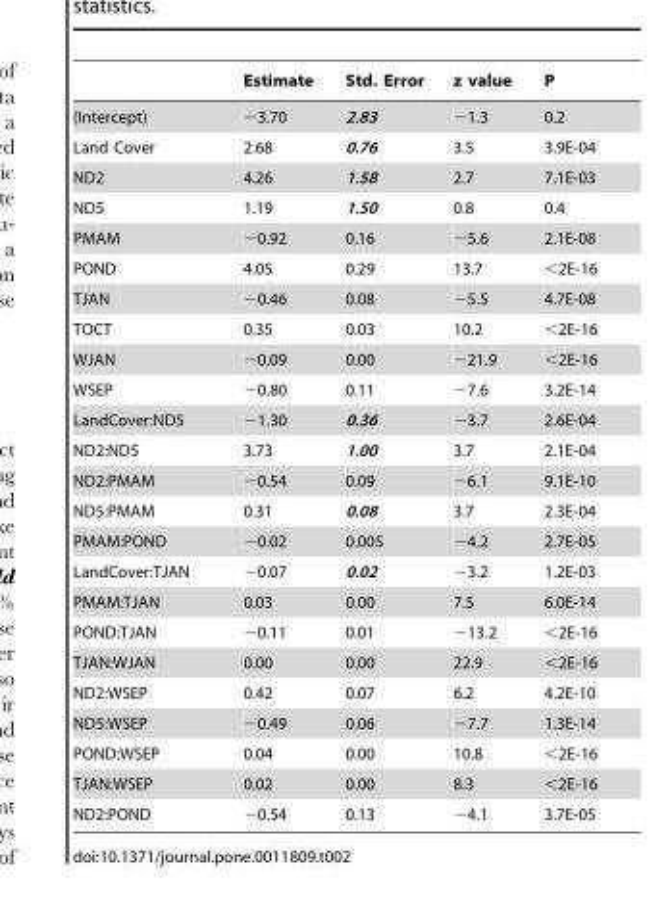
<table><thead><tr><td></td><td>Estimate</td><td>Std. Error</td><td>z value</td><td>P</td></tr></thead><tbody><tr><td>(Intercept)</td><td>−3.70</td><td>2.83</td><td>−1.3</td><td>0.2</td></tr><tr><td>Land Cover</td><td>2.68</td><td>0.76</td><td>3.5</td><td>3.9E-04</td></tr><tr><td>ND2</td><td>4.26</td><td>1.58</td><td>2.7</td><td>7.1E-03</td></tr><tr><td>ND5</td><td>1.19</td><td>1.50</td><td>0.8</td><td>0.4</td></tr><tr><td>PMAM</td><td>−0.92</td><td>0.16</td><td>−5.6</td><td>2.1E-08</td></tr><tr><td>POND</td><td>4.05</td><td>0.29</td><td>13.7</td><td>&lt;2E-16</td></tr><tr><td>TJAN</td><td>−0.46</td><td>0.08</td><td>−5.5</td><td>4.7E-08</td></tr><tr><td>TOCT</td><td>0.35</td><td>0.03</td><td>10.2</td><td>&lt;2E-16</td></tr><tr><td>WJAN</td><td>−0.09</td><td>0.00</td><td>−21.9</td><td>&lt;2E-16</td></tr><tr><td>WSEP</td><td>−0.80</td><td>0.11</td><td>−7.6</td><td>3.2E-14</td></tr><tr><td>LandCover:ND5</td><td>−1.30</td><td>0.36</td><td>−3.7</td><td>2.6E-04</td></tr><tr><td>ND2:ND5</td><td>3.73</td><td>1.00</td><td>3.7</td><td>2.1E-04</td></tr><tr><td>ND2:PMAM</td><td>−0.54</td><td>0.09</td><td>−6.1</td><td>9.1E-10</td></tr><tr><td>ND5:PMAM</td><td>0.31</td><td>0.08</td><td>3.7</td><td>2.3E-04</td></tr><tr><td>PMAM:POND</td><td>−0.02</td><td>0.005</td><td>−4.2</td><td>2.7E-05</td></tr><tr><td>LandCover:TJAN</td><td>−0.07</td><td>0.02</td><td>−3.2</td><td>1.2E-03</td></tr><tr><td>PMAM:TJAN</td><td>0.03</td><td>0.00</td><td>7.5</td><td>6.0E-14</td></tr><tr><td>POND:TJAN</td><td>−0.11</td><td>0.01</td><td>−13.2</td><td>&lt;2E-16</td></tr><tr><td>TJAN:WJAN</td><td>0.00</td><td>0.00</td><td>22.9</td><td>&lt;2E-16</td></tr><tr><td>ND2:WSEP</td><td>0.42</td><td>0.07</td><td>6.2</td><td>4.2E-10</td></tr><tr><td>ND5:WSEP</td><td>−0.49</td><td>0.06</td><td>−7.7</td><td>1.3E-14</td></tr><tr><td>POND:WSEP</td><td>0.04</td><td>0.00</td><td>10.8</td><td>&lt;2E-16</td></tr><tr><td>TJAN:WSEP</td><td>0.02</td><td>0.00</td><td>8.3</td><td>&lt;2E-16</td></tr><tr><td>ND2:POND</td><td>−0.54</td><td>0.13</td><td>−4.1</td><td>3.7E-05</td></tr></tbody></table>